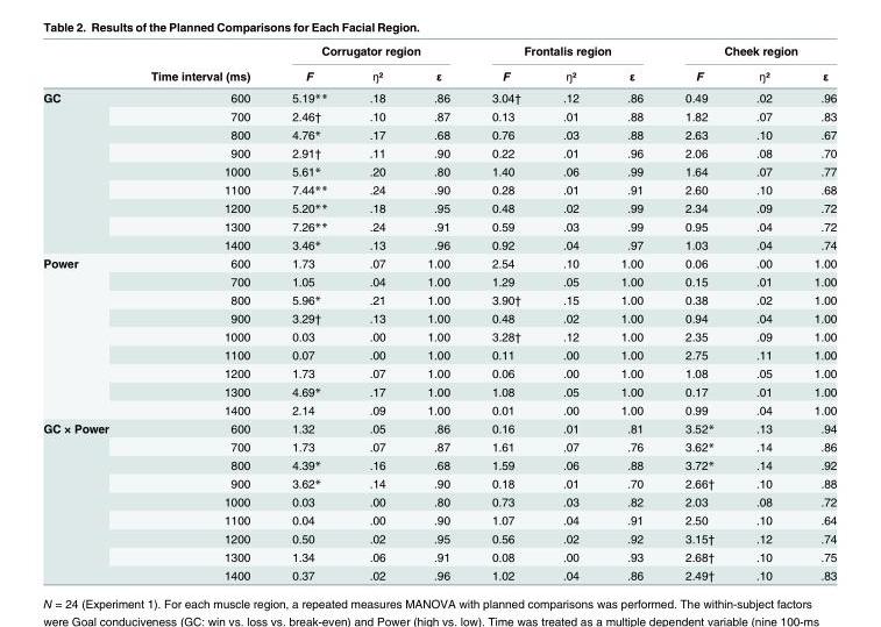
<table><thead><tr><td rowspan="2"></td><td rowspan="2">Time interval (ms)</td><td colspan="3">Corrugator region</td><td colspan="3">Frontalis region</td><td colspan="3">Cheek region</td></tr><tr><td>F</td><td>ŋ²</td><td>ε</td><td>F</td><td>ŋ²</td><td>ε</td><td>F</td><td>ŋ²</td><td>ε</td></tr></thead><tbody><tr><td rowspan="9">GC</td><td>600</td><td>5.19**</td><td>.18</td><td>.86</td><td>3.04†</td><td>.12</td><td>.86</td><td>0.49</td><td>.02</td><td>.96</td></tr><tr><td>700</td><td>2.46†</td><td>.10</td><td>.87</td><td>0.13</td><td>.01</td><td>.88</td><td>1.82</td><td>.07</td><td>.83</td></tr><tr><td>800</td><td>4.76*</td><td>.17</td><td>.68</td><td>0.76</td><td>.03</td><td>.88</td><td>2.63</td><td>.10</td><td>.67</td></tr><tr><td>900</td><td>2.91†</td><td>.11</td><td>.90</td><td>0.22</td><td>.01</td><td>.96</td><td>2.06</td><td>.08</td><td>.70</td></tr><tr><td>1000</td><td>5.61*</td><td>.20</td><td>.80</td><td>1.40</td><td>.06</td><td>.99</td><td>1.64</td><td>.07</td><td>.77</td></tr><tr><td>1100</td><td>7.44**</td><td>.24</td><td>.90</td><td>0.28</td><td>.01</td><td>.91</td><td>2.60</td><td>.10</td><td>.68</td></tr><tr><td>1200</td><td>5.20**</td><td>.18</td><td>.95</td><td>0.48</td><td>.02</td><td>.99</td><td>2.34</td><td>.09</td><td>.72</td></tr><tr><td>1300</td><td>7.26**</td><td>.24</td><td>.91</td><td>0.59</td><td>.03</td><td>.99</td><td>0.95</td><td>.04</td><td>.72</td></tr><tr><td>1400</td><td>3.46*</td><td>.13</td><td>.96</td><td>0.92</td><td>.04</td><td>.97</td><td>1.03</td><td>.04</td><td>.74</td></tr><tr><td rowspan="9">Power</td><td>600</td><td>1.73</td><td>.07</td><td>1.00</td><td>2.54</td><td>.10</td><td>1.00</td><td>0.06</td><td>.00</td><td>1.00</td></tr><tr><td>700</td><td>1.05</td><td>.04</td><td>1.00</td><td>1.29</td><td>.05</td><td>1.00</td><td>0.15</td><td>.01</td><td>1.00</td></tr><tr><td>800</td><td>5.96*</td><td>.21</td><td>1.00</td><td>3.90†</td><td>.15</td><td>1.00</td><td>0.38</td><td>.02</td><td>1.00</td></tr><tr><td>900</td><td>3.29†</td><td>.13</td><td>1.00</td><td>0.48</td><td>.02</td><td>1.00</td><td>0.94</td><td>.04</td><td>1.00</td></tr><tr><td>1000</td><td>0.03</td><td>.00</td><td>1.00</td><td>3.28†</td><td>.12</td><td>1.00</td><td>2.35</td><td>.09</td><td>1.00</td></tr><tr><td>1100</td><td>0.07</td><td>.00</td><td>1.00</td><td>0.11</td><td>.00</td><td>1.00</td><td>2.75</td><td>.11</td><td>1.00</td></tr><tr><td>1200</td><td>1.73</td><td>.07</td><td>1.00</td><td>0.06</td><td>.00</td><td>1.00</td><td>1.08</td><td>.05</td><td>1.00</td></tr><tr><td>1300</td><td>4.69*</td><td>.17</td><td>1.00</td><td>1.08</td><td>.05</td><td>1.00</td><td>0.17</td><td>.01</td><td>1.00</td></tr><tr><td>1400</td><td>2.14</td><td>.09</td><td>1.00</td><td>0.01</td><td>.00</td><td>1.00</td><td>0.99</td><td>.04</td><td>1.00</td></tr><tr><td rowspan="9">GC × Power</td><td>600</td><td>1.32</td><td>.05</td><td>.86</td><td>0.16</td><td>.01</td><td>.81</td><td>3.52*</td><td>.13</td><td>.94</td></tr><tr><td>700</td><td>1.73</td><td>.07</td><td>.87</td><td>1.61</td><td>.07</td><td>.76</td><td>3.62*</td><td>.14</td><td>.86</td></tr><tr><td>800</td><td>4.39*</td><td>.16</td><td>.68</td><td>1.59</td><td>.06</td><td>.88</td><td>3.72*</td><td>.14</td><td>.92</td></tr><tr><td>900</td><td>3.62*</td><td>.14</td><td>.90</td><td>0.18</td><td>.01</td><td>.70</td><td>2.66†</td><td>.10</td><td>.88</td></tr><tr><td>1000</td><td>0.03</td><td>.00</td><td>.80</td><td>0.73</td><td>.03</td><td>.82</td><td>2.03</td><td>.08</td><td>.72</td></tr><tr><td>1100</td><td>0.04</td><td>.00</td><td>.90</td><td>1.07</td><td>.04</td><td>.91</td><td>2.50</td><td>.10</td><td>.64</td></tr><tr><td>1200</td><td>0.50</td><td>.02</td><td>.95</td><td>0.56</td><td>.02</td><td>.92</td><td>3.15†</td><td>.12</td><td>.74</td></tr><tr><td>1300</td><td>1.34</td><td>.06</td><td>.91</td><td>0.08</td><td>.00</td><td>.93</td><td>2.68†</td><td>.10</td><td>.75</td></tr><tr><td>1400</td><td>0.37</td><td>.02</td><td>.96</td><td>1.02</td><td>.04</td><td>.86</td><td>2.49†</td><td>.10</td><td>.83</td></tr></tbody></table>